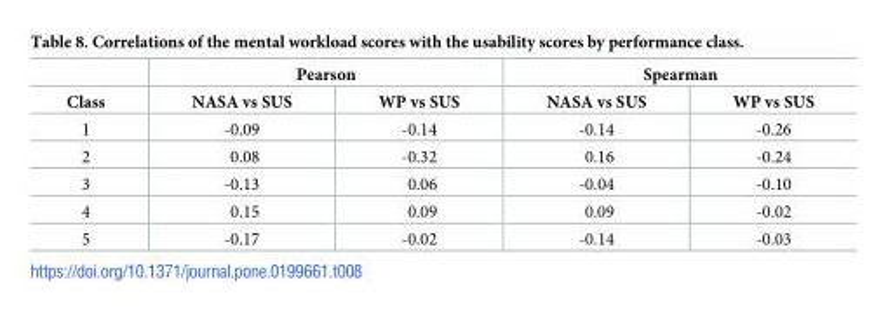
<table><thead><tr><td rowspan="2">Class</td><td colspan="2">Pearson</td><td colspan="2">Spearman</td></tr><tr><td>NASA vs SUS</td><td>WP vs SUS</td><td>NASA vs SUS</td><td>WP vs SUS</td></tr></thead><tbody><tr><td>1</td><td>-0.09</td><td>-0.14</td><td>-0.14</td><td>-0.26</td></tr><tr><td>2</td><td>0.08</td><td>-0.32</td><td>0.16</td><td>-0.24</td></tr><tr><td>3</td><td>-0.13</td><td>0.06</td><td>-0.04</td><td>-0.10</td></tr><tr><td>4</td><td>0.15</td><td>0.09</td><td>0.09</td><td>-0.02</td></tr><tr><td>5</td><td>-0.17</td><td>-0.02</td><td>-0.14</td><td>-0.03</td></tr></tbody></table>